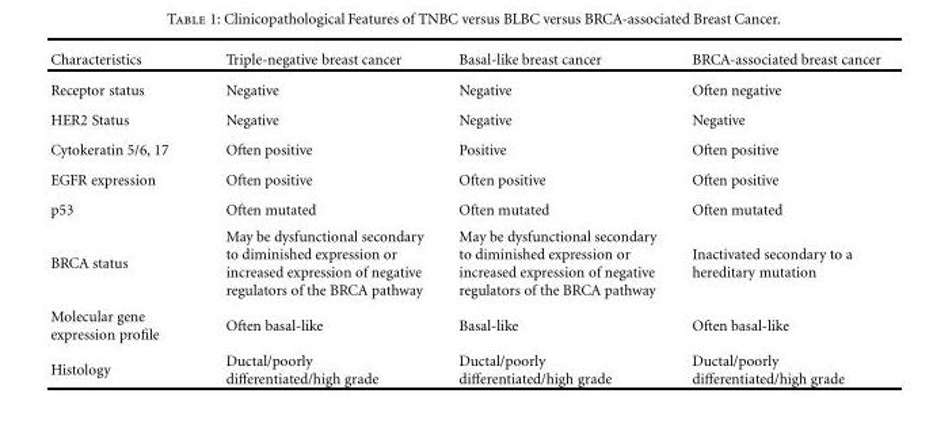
<table><thead><tr><td>Characteristics</td><td>Triple-negative breast cancer</td><td>Basal-like breast cancer</td><td>BRCA-associated breast cancer</td></tr></thead><tbody><tr><td>Receptor status</td><td>Negative</td><td>Negative</td><td>Often negative</td></tr><tr><td>HER2 Status</td><td>Negative</td><td>Negative</td><td>Negative</td></tr><tr><td>Cytokeratin 5/6, 17</td><td>Often positive</td><td>Positive</td><td>Often positive</td></tr><tr><td>EGFR expression</td><td>Often positive</td><td>Often positive</td><td>Often positive</td></tr><tr><td>p53</td><td>Often mutated</td><td>Often mutated</td><td>Often mutated</td></tr><tr><td>BRCA status</td><td>May be dysfunctional secondary to diminished expression or increased expression of negative regulators of the BRCA pathway</td><td>May be dysfunctional secondary to diminished expression or increased expression of negative regulators of the BRCA pathway</td><td>Inactivated secondary to a hereditary mutation</td></tr><tr><td>Molecular gene expression profile</td><td>Often basal-like</td><td>Basal-like</td><td>Often basal-like</td></tr><tr><td>Histology</td><td>Ductal/poorly differentiated/high grade</td><td>Ductal/poorly differentiated/high grade</td><td>Ductal/poorly differentiated/high grade</td></tr></tbody></table>